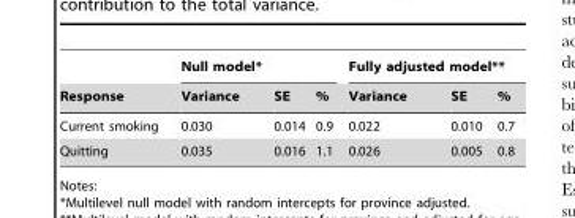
<table><thead><tr><td rowspan="2">Response</td><td colspan="3">Null model*</td><td colspan="3">Fully adjusted model**</td></tr><tr><td>Variance</td><td>SE</td><td>%</td><td>Variance</td><td>SE</td><td>%</td></tr></thead><tbody><tr><td>Current smoking</td><td>0.030</td><td>0.014</td><td>0.9</td><td>0.022</td><td>0.010</td><td>0.7</td></tr><tr><td>Quitting</td><td>0.035</td><td>0.016</td><td>1.1</td><td>0.026</td><td>0.005</td><td>0.8</td></tr></tbody></table>